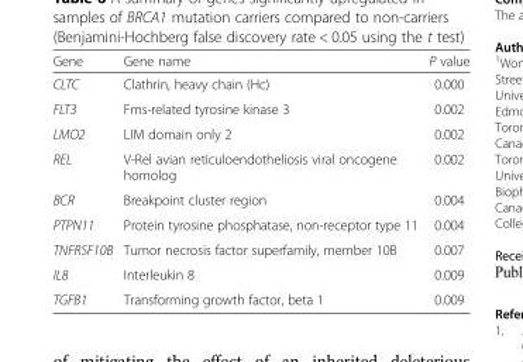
<table><thead><tr><td>Gene</td><td>Gene name</td><td>P value</td></tr></thead><tbody><tr><td>CLTC</td><td>Clathrin, heavy chain (Hc)</td><td>0.000</td></tr><tr><td>FLT3</td><td>Fms-related tyrosine kinase 3</td><td>0.002</td></tr><tr><td>LMO2</td><td>LIM domain only 2</td><td>0.002</td></tr><tr><td>REL</td><td>V-Rel avian reticuloendotheliosis viral oncogene homolog</td><td>0.002</td></tr><tr><td>BCR</td><td>Breakpoint cluster region</td><td>0.004</td></tr><tr><td>PTPN11</td><td>Protein tyrosine phosphatase, non-receptor type 11</td><td>0.004</td></tr><tr><td>TNFRSF10B</td><td>Tumor necrosis factor superfamily, member 10B</td><td>0.007</td></tr><tr><td>IL8</td><td>Interleukin 8</td><td>0.009</td></tr><tr><td>TGFB1</td><td>Transforming growth factor, beta 1</td><td>0.009</td></tr></tbody></table>